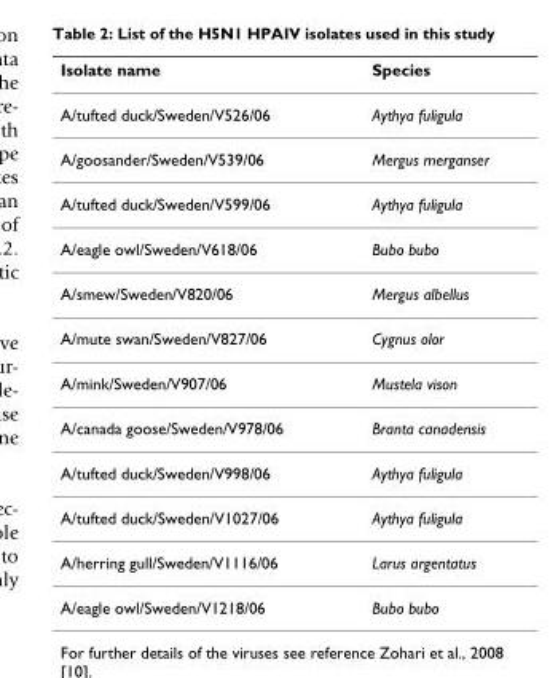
<table><thead><tr><td>Isolate name</td><td>Species</td></tr></thead><tbody><tr><td>A/tufted duck/Sweden/V526/06</td><td>Aythya fuligula</td></tr><tr><td>A/goosander/Sweden/V539/06</td><td>Mergus merganser</td></tr><tr><td>A/tufted duck/Sweden/V599/06</td><td>Aythya fuligula</td></tr><tr><td>A/eagle owl/Sweden/V618/06</td><td>Bubo bubo</td></tr><tr><td>A/smew/Sweden/V820/06</td><td>Mergus albellus</td></tr><tr><td>A/mute swan/Sweden/V827/06</td><td>Cygnus olor</td></tr><tr><td>A/mink/Sweden/V907/06</td><td>Mustela vison</td></tr><tr><td>A/canada goose/Sweden/V978/06</td><td>Branta canadensis</td></tr><tr><td>A/tufted duck/Sweden/V998/06</td><td>Aythya fuligula</td></tr><tr><td>A/tufted duck/Sweden/V1027/06</td><td>Aythya fuligula</td></tr><tr><td>A/herring gull/Sweden/V1116/06</td><td>Larus argentatus</td></tr><tr><td>A/eagle owl/Sweden/V1218/06</td><td>Bubo bubo</td></tr></tbody></table>